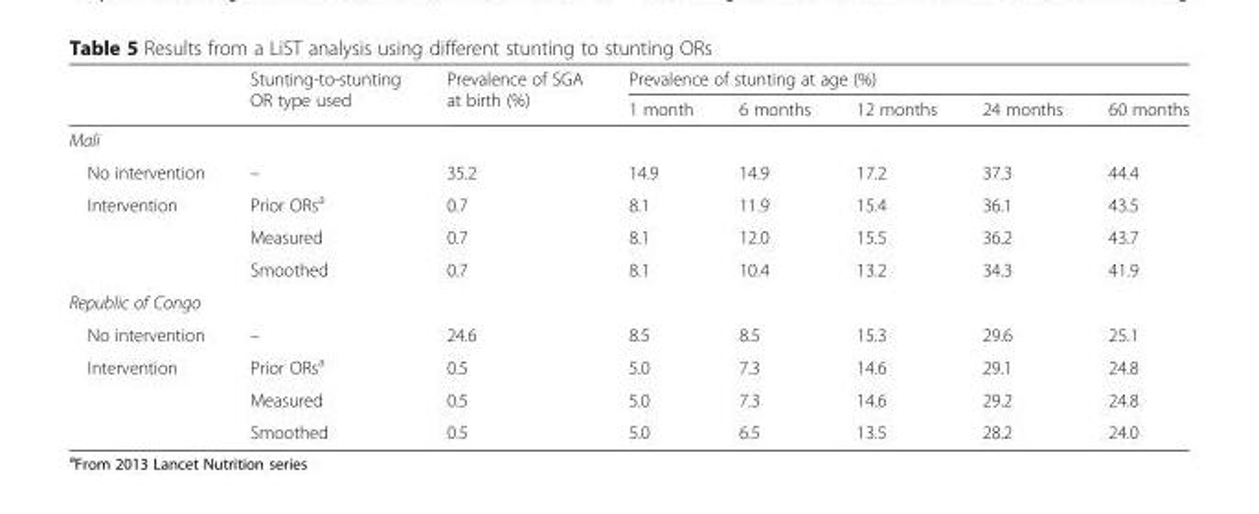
<table><thead><tr><td rowspan="2"></td><td rowspan="2">Stunting-to-stunting OR type used</td><td rowspan="2">Prevalence of SGA at birth (%)</td><td colspan="5">Prevalence of stunting at age (%)</td></tr><tr><td>1 month</td><td>6 months</td><td>12 months</td><td>24 months</td><td>60 months</td></tr></thead><tbody><tr><td colspan="8">Mali</td></tr><tr><td>No intervention</td><td>–</td><td>35.2</td><td>14.9</td><td>14.9</td><td>17.2</td><td>37.3</td><td>44.4</td></tr><tr><td rowspan="3">Intervention</td><td>Prior ORs<sup>a</sup></td><td>0.7</td><td>8.1</td><td>11.9</td><td>15.4</td><td>36.1</td><td>43.5</td></tr><tr><td>Measured</td><td>0.7</td><td>8.1</td><td>12.0</td><td>15.5</td><td>36.2</td><td>43.7</td></tr><tr><td>Smoothed</td><td>0.7</td><td>8.1</td><td>10.4</td><td>13.2</td><td>34.3</td><td>41.9</td></tr><tr><td colspan="8">Republic of Congo</td></tr><tr><td>No intervention</td><td>–</td><td>24.6</td><td>8.5</td><td>8.5</td><td>15.3</td><td>29.6</td><td>25.1</td></tr><tr><td rowspan="3">Intervention</td><td>Prior ORs<sup>a</sup></td><td>0.5</td><td>5.0</td><td>7.3</td><td>14.6</td><td>29.1</td><td>24.8</td></tr><tr><td>Measured</td><td>0.5</td><td>5.0</td><td>7.3</td><td>14.6</td><td>29.2</td><td>24.8</td></tr><tr><td>Smoothed</td><td>0.5</td><td>5.0</td><td>6.5</td><td>13.5</td><td>28.2</td><td>24.0</td></tr></tbody></table>